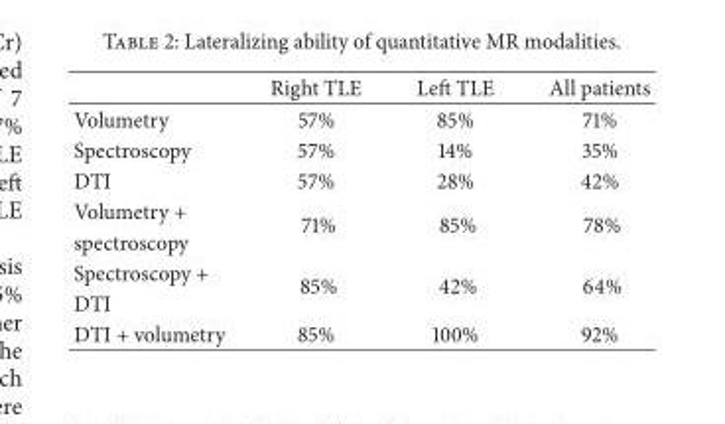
<table><thead><tr><td></td><td>Right TLE</td><td>Left TLE</td><td>All patients</td></tr></thead><tbody><tr><td>Volumetry</td><td>57%</td><td>85%</td><td>71%</td></tr><tr><td>Spectroscopy</td><td>57%</td><td>14%</td><td>35%</td></tr><tr><td>DTI</td><td>57%</td><td>28%</td><td>42%</td></tr><tr><td>Volumetry +</td><td rowspan="2">71%</td><td rowspan="2">85%</td><td rowspan="2">78%</td></tr><tr><td>spectroscopy</td></tr><tr><td>Spectroscopy +</td><td rowspan="2">85%</td><td rowspan="2">42%</td><td rowspan="2">64%</td></tr><tr><td>DTI</td></tr><tr><td>DTI + volumetry</td><td>85%</td><td>100%</td><td>92%</td></tr></tbody></table>